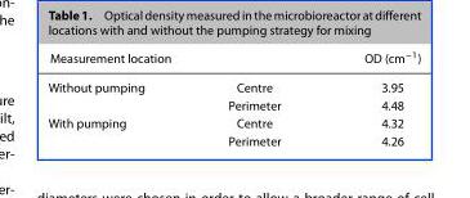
<table><thead><tr><td colspan="2">Measurement location</td><td rowspan="2">OD (cm<sup>−1</sup>) 3.95</td></tr><tr><td>Without pumping</td><td>Centre</td></tr></thead><tbody><tr><td></td><td>Perimeter</td><td>4.48</td></tr><tr><td rowspan="2">With pumping</td><td>Centre</td><td>4.32</td></tr><tr><td>Perimeter</td><td>4.26</td></tr></tbody></table>